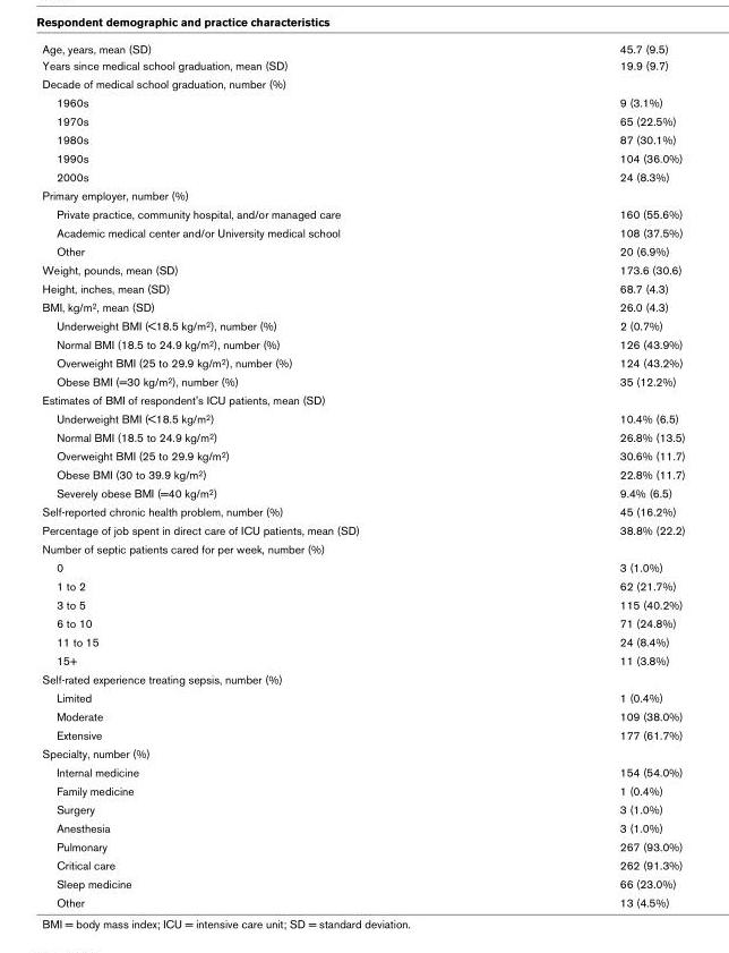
<table><tbody><tr><td>Age, years, mean (SD)</td><td>45.7 (9.5)</td></tr><tr><td>Years since medical school graduation, mean (SD)</td><td>19.9 (9.7)</td></tr><tr><td colspan="2">Decade of medical school graduation, number (%)</td></tr><tr><td>1960s</td><td>9 (3.1%)</td></tr><tr><td>1970s</td><td>65 (22.5%)</td></tr><tr><td>1980s</td><td>87 (30.1%)</td></tr><tr><td>1990s</td><td>104 (36.0%)</td></tr><tr><td>2000s</td><td>24 (8.3%)</td></tr><tr><td colspan="2">Primary employer, number (%)</td></tr><tr><td>Private practice, community hospital, and/or managed care</td><td>160 (55.6%)</td></tr><tr><td>Academic medical center and/or University medical school</td><td>108 (37.5%)</td></tr><tr><td>Other</td><td>20 (6.9%)</td></tr><tr><td>Weight, pounds, mean (SD)</td><td>173.6 (30.6)</td></tr><tr><td>Height, inches, mean (SD)</td><td>68.7 (4.3)</td></tr><tr><td>BMI, kg/m<sup>2</sup>, mean (SD)</td><td>26.0 (4.3)</td></tr><tr><td>Underweight BMI (&lt;18.5 kg/m<sup>2</sup>), number (%)</td><td>2 (0.7%)</td></tr><tr><td>Normal BMI (18.5 to 24.9 kg/m<sup>2</sup>), number (%)</td><td>126 (43.9%)</td></tr><tr><td>Overweight BMI (25 to 29.9 kg/m<sup>2</sup>), number (%)</td><td>124 (43.2%)</td></tr><tr><td>Obese BMI (=30 kg/m<sup>2</sup>), number (%)</td><td>35 (12.2%)</td></tr><tr><td colspan="2">Estimates of BMI of respondent&#x27;s ICU patients, mean (SD)</td></tr><tr><td>Underweight BMI (&lt;18.5 kg/m<sup>2</sup>)</td><td>10.4% (6.5)</td></tr><tr><td>Normal BMI (18.5 to 24.9 kg/m<sup>2</sup>)</td><td>26.8% (13.5)</td></tr><tr><td>Overweight BMI (25 to 29.9 kg/m<sup>2</sup>)</td><td>30.6% (11.7)</td></tr><tr><td>Obese BMI (30 to 39.9 kg/m<sup>2</sup>)</td><td>22.8% (11.7)</td></tr><tr><td>Severely obese BMI (=40 kg/m<sup>2</sup>)</td><td>9.4% (6.5)</td></tr><tr><td>Self-reported chronic health problem, number (%)</td><td>45 (16.2%)</td></tr><tr><td>Percentage of job spent in direct care of ICU patients, mean (SD)</td><td>38.8% (22.2)</td></tr><tr><td colspan="2">Number of septic patients cared for per week, number (%)</td></tr><tr><td>0</td><td>3 (1.0%)</td></tr><tr><td>1 to 2</td><td>62 (21.7%)</td></tr><tr><td>3 to 5</td><td>115 (40.2%)</td></tr><tr><td>6 to 10</td><td>71 (24.8%)</td></tr><tr><td>11 to 15</td><td>24 (8.4%)</td></tr><tr><td>15+</td><td>11 (3.8%)</td></tr><tr><td colspan="2">Self-rated experience treating sepsis, number (%)</td></tr><tr><td>Limited</td><td>1 (0.4%)</td></tr><tr><td>Moderate</td><td>109 (38.0%)</td></tr><tr><td>Extensive</td><td>177 (61.7%)</td></tr><tr><td colspan="2">Specialty, number (%)</td></tr><tr><td>Internal medicine</td><td>154 (54.0%)</td></tr><tr><td>Family medicine</td><td>1 (0.4%)</td></tr><tr><td>Surgery</td><td>3 (1.0%)</td></tr><tr><td>Anesthesia</td><td>3 (1.0%)</td></tr><tr><td>Pulmonary</td><td>267 (93.0%)</td></tr><tr><td>Critical care</td><td>262 (91.3%)</td></tr><tr><td>Sleep medicine</td><td>66 (23.0%)</td></tr><tr><td>Other</td><td>13 (4.5%)</td></tr></tbody></table>